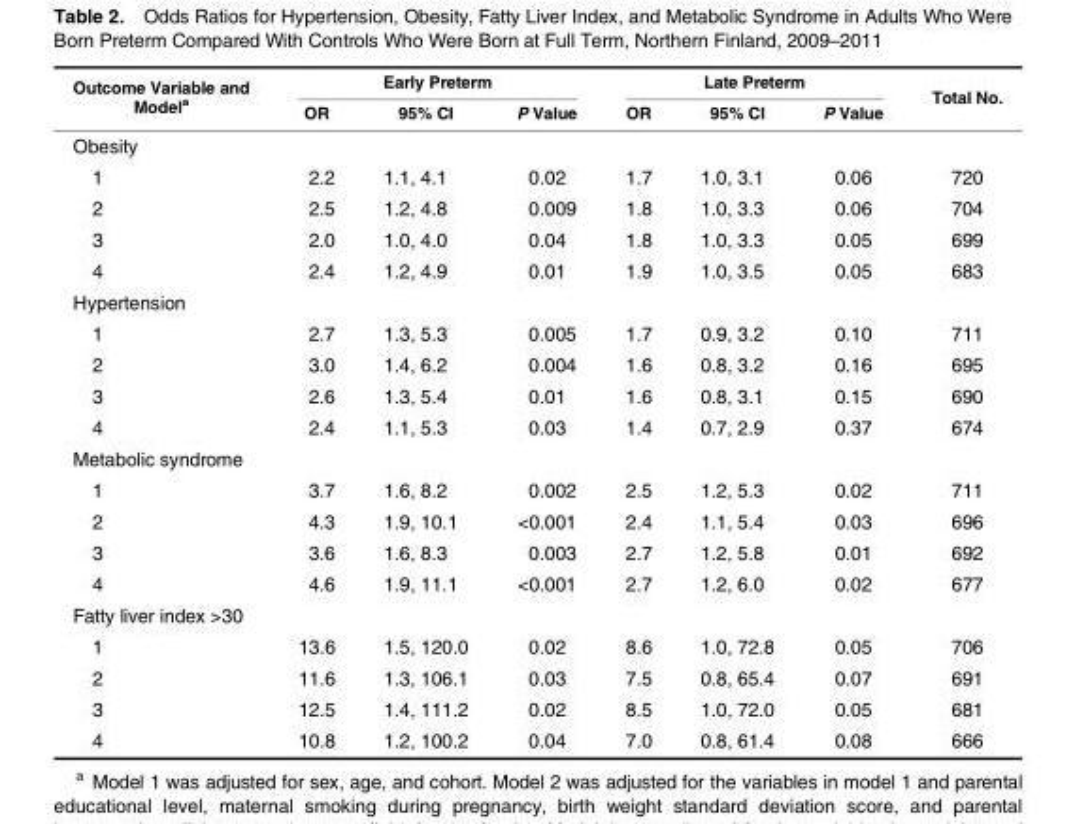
<table><thead><tr><td rowspan="2">Outcome Variable and Model<sup>a</sup></td><td colspan="3">Early Preterm</td><td colspan="3">Late Preterm</td><td rowspan="2">Total No.</td></tr><tr><td>OR</td><td>95% CI</td><td>P Value</td><td>OR</td><td>95% CI</td><td>P Value</td></tr></thead><tbody><tr><td colspan="8">Obesity</td></tr><tr><td>1</td><td>2.2</td><td>1.1, 4.1</td><td>0.02</td><td>1.7</td><td>1.0, 3.1</td><td>0.06</td><td>720</td></tr><tr><td>2</td><td>2.5</td><td>1.2, 4.8</td><td>0.009</td><td>1.8</td><td>1.0, 3.3</td><td>0.06</td><td>704</td></tr><tr><td>3</td><td>2.0</td><td>1.0, 4.0</td><td>0.04</td><td>1.8</td><td>1.0, 3.3</td><td>0.05</td><td>699</td></tr><tr><td>4</td><td>2.4</td><td>1.2, 4.9</td><td>0.01</td><td>1.9</td><td>1.0, 3.5</td><td>0.05</td><td>683</td></tr><tr><td colspan="8">Hypertension</td></tr><tr><td>1</td><td>2.7</td><td>1.3, 5.3</td><td>0.005</td><td>1.7</td><td>0.9, 3.2</td><td>0.10</td><td>711</td></tr><tr><td>2</td><td>3.0</td><td>1.4, 6.2</td><td>0.004</td><td>1.6</td><td>0.8, 3.2</td><td>0.16</td><td>695</td></tr><tr><td>3</td><td>2.6</td><td>1.3, 5.4</td><td>0.01</td><td>1.6</td><td>0.8, 3.1</td><td>0.15</td><td>690</td></tr><tr><td>4</td><td>2.4</td><td>1.1, 5.3</td><td>0.03</td><td>1.4</td><td>0.7, 2.9</td><td>0.37</td><td>674</td></tr><tr><td colspan="8">Metabolic syndrome</td></tr><tr><td>1</td><td>3.7</td><td>1.6, 8.2</td><td>0.002</td><td>2.5</td><td>1.2, 5.3</td><td>0.02</td><td>711</td></tr><tr><td>2</td><td>4.3</td><td>1.9, 10.1</td><td>&lt;0.001</td><td>2.4</td><td>1.1, 5.4</td><td>0.03</td><td>696</td></tr><tr><td>3</td><td>3.6</td><td>1.6, 8.3</td><td>0.003</td><td>2.7</td><td>1.2, 5.8</td><td>0.01</td><td>692</td></tr><tr><td>4</td><td>4.6</td><td>1.9, 11.1</td><td>&lt;0.001</td><td>2.7</td><td>1.2, 6.0</td><td>0.02</td><td>677</td></tr><tr><td colspan="8">Fatty liver index &gt;30</td></tr><tr><td>1</td><td>13.6</td><td>1.5, 120.0</td><td>0.02</td><td>8.6</td><td>1.0, 72.8</td><td>0.05</td><td>706</td></tr><tr><td>2</td><td>11.6</td><td>1.3, 106.1</td><td>0.03</td><td>7.5</td><td>0.8, 65.4</td><td>0.07</td><td>691</td></tr><tr><td>3</td><td>12.5</td><td>1.4, 111.2</td><td>0.02</td><td>8.5</td><td>1.0, 72.0</td><td>0.05</td><td>681</td></tr><tr><td>4</td><td>10.8</td><td>1.2, 100.2</td><td>0.04</td><td>7.0</td><td>0.8, 61.4</td><td>0.08</td><td>666</td></tr></tbody></table>